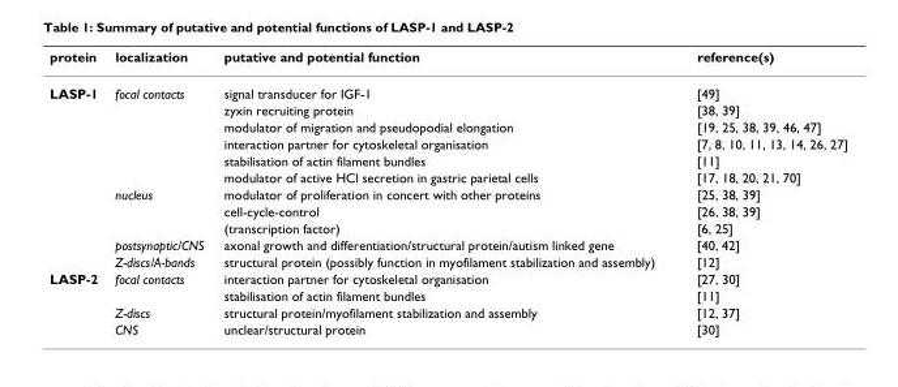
<table><thead><tr><td>protein</td><td>localization</td><td>putative and potential function</td><td>reference(s)</td></tr></thead><tbody><tr><td rowspan="11">LASP-1</td><td>focal contacts</td><td>signal transducer for IGF-1</td><td>[49]</td></tr><tr><td></td><td>zyxin recruiting protein</td><td>[38, 39]</td></tr><tr><td></td><td>modulator of migration and pseudopodial elongation</td><td>[19, 25, 38, 39, 46, 47]</td></tr><tr><td></td><td>interaction partner for cytoskeletal organisation</td><td>[7, 8, 10, 11, 13, 14, 26, 27]</td></tr><tr><td></td><td>stabilisation of actin filament bundles</td><td>[11]</td></tr><tr><td></td><td>modulator of active HCl secretion in gastric parietal cells</td><td>[17, 18, 20, 21, 70]</td></tr><tr><td>nucleus</td><td>modulator of proliferation in concert with other proteins</td><td>[25, 38, 39]</td></tr><tr><td></td><td>cell-cycle-control</td><td>[26, 38, 39]</td></tr><tr><td></td><td>(transcription factor)</td><td>[6, 25]</td></tr><tr><td>postsynaptic/CNS</td><td>axonal growth and differentiation/structural protein/autism linked gene</td><td>[40, 42]</td></tr><tr><td>Z-discs/A-bands</td><td>structural protein (possibly function in myofilament stabilization and assembly)</td><td>[12]</td></tr><tr><td rowspan="4">LASP-2</td><td>focal contacts</td><td>interaction partner for cytoskeletal organisation</td><td>[27, 30]</td></tr><tr><td></td><td>stabilisation of actin filament bundles</td><td>[11]</td></tr><tr><td>Z-discs</td><td>structural protein/myofilament stabilization and assembly</td><td>[12, 37]</td></tr><tr><td>CNS</td><td>unclear/structural protein</td><td>[30]</td></tr></tbody></table>